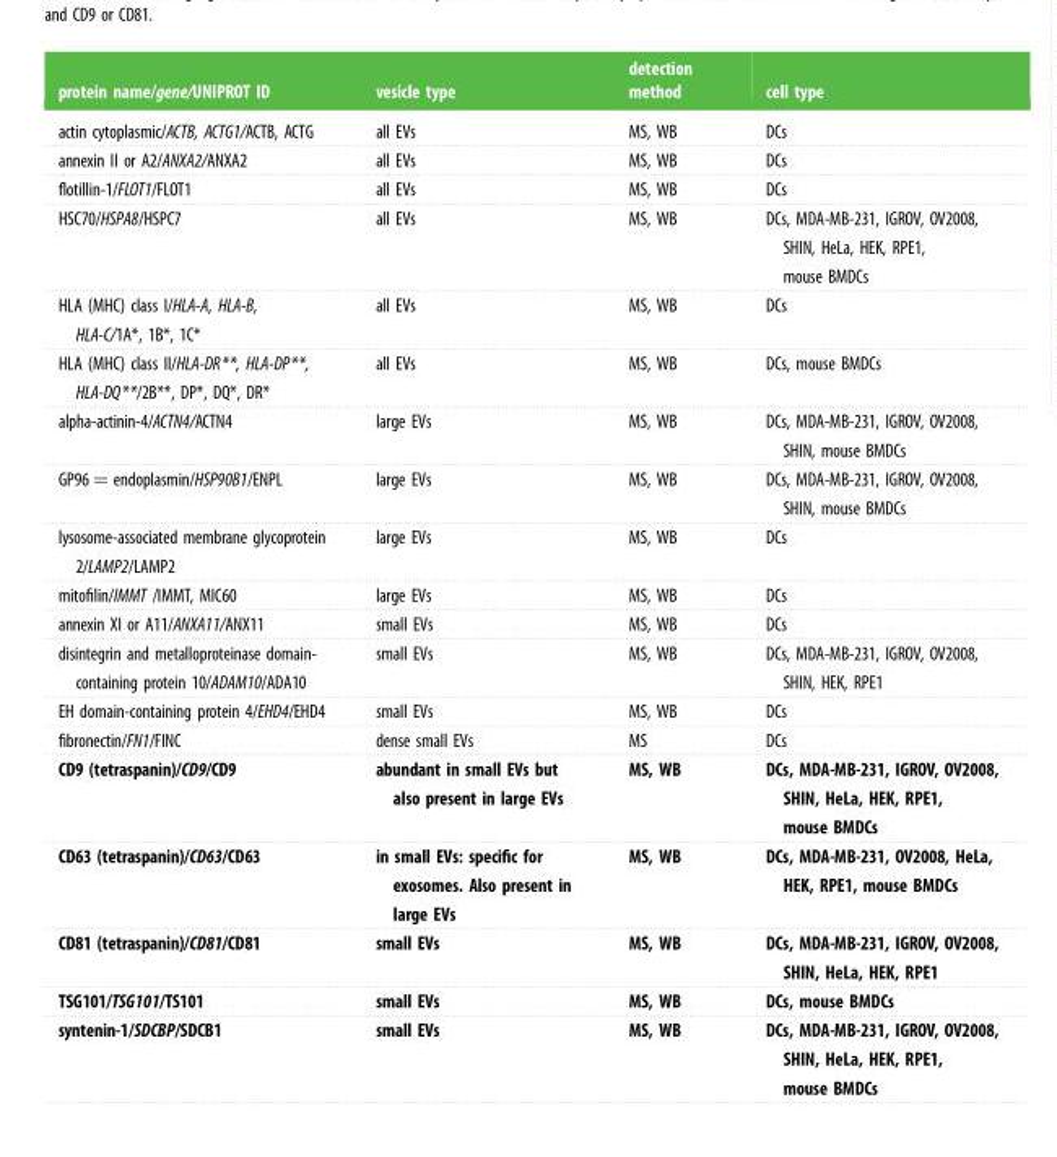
<table><thead><tr><td>protein name/gene/UNIPROT ID</td><td>vesicle type</td><td>detection method</td><td>cell type</td></tr></thead><tbody><tr><td>actin cytoplasmic/ACTB, ACTG1/ACTB, ACTG</td><td>all EVs</td><td>MS, WB</td><td>DCs</td></tr><tr><td>annexin II or A2/ANXA2/ANXA2</td><td>all EVs</td><td>MS, WB</td><td>DCs</td></tr><tr><td>flotillin-1/FLOT1/FLOT1</td><td>all EVs</td><td>MS, WB</td><td>DCs</td></tr><tr><td>HSC70/HSPA8/HSPC7</td><td>all EVs</td><td>MS, WB</td><td>DCs, MDA-MB-231, IGROV, OV2008, SHIN, HeLa, HEK, RPE1, mouse BMDCs</td></tr><tr><td>HLA (MHC) class I/HLA-A, HLA-B, HLA-C/1A*, 1B*, 1C*</td><td>all EVs</td><td>MS, WB</td><td>DCs</td></tr><tr><td>HLA (MHC) class II/HLA-DR**, HLA-DP**, HLA-DQ**/2B**, DP*, DQ*, DR*</td><td>all EVs</td><td>MS, WB</td><td>DCs, mouse BMDCs</td></tr><tr><td>alpha-actinin-4/ACTN4/ACTN4</td><td>large EVs</td><td>MS, WB</td><td>DCs, MDA-MB-231, IGROV, OV2008, SHIN, mouse BMDCs</td></tr><tr><td>GP96 = endoplasmin/HSP90B1/ENPL</td><td>large EVs</td><td>MS, WB</td><td>DCs, MDA-MB-231, IGROV, OV2008, SHIN, mouse BMDCs</td></tr><tr><td>lysosome-associated membrane glycoprotein 2/LAMP2/LAMP2</td><td>large EVs</td><td>MS, WB</td><td>DCs</td></tr><tr><td>mitofilin/IMMT /IMMT, MIC60</td><td>large EVs</td><td>MS, WB</td><td>DCs</td></tr><tr><td>annexin XI or A11/ANXA11/ANX11</td><td>small EVs</td><td>MS, WB</td><td>DCs</td></tr><tr><td>disintegrin and metalloproteinase domain- containing protein 10/ADAM10/ADA10</td><td>small EVs</td><td>MS, WB</td><td>DCs, MDA-MB-231, IGROV, OV2008, SHIN, HEK, RPE1</td></tr><tr><td>EH domain-containing protein 4/EHD4/EHD4</td><td>small EVs</td><td>MS, WB</td><td>DCs</td></tr><tr><td>fibronectin/FN1/FINC</td><td>dense small EVs</td><td>MS</td><td>DCs</td></tr><tr><td>CD9 (tetraspanin)/CD9/CD9</td><td>abundant in small EVs but also present in large EVs</td><td>MS, WB</td><td>DCs, MDA-MB-231, IGROV, OV2008, SHIN, HeLa, HEK, RPE1, mouse BMDCs</td></tr><tr><td>CD63 (tetraspanin)/CD63/CD63</td><td>in small EVs: specific for exosomes. Also present in large EVs</td><td>MS, WB</td><td>DCs, MDA-MB-231, OV2008, HeLa, HEK, RPE1, mouse BMDCs</td></tr><tr><td>CD81 (tetraspanin)/CD81/CD81</td><td>small EVs</td><td>MS, WB</td><td>DCs, MDA-MB-231, IGROV, OV2008, SHIN, HeLa, HEK, RPE1</td></tr><tr><td>TSG101/TSG101/TS101</td><td>small EVs</td><td>MS, WB</td><td>DCs, mouse BMDCs</td></tr><tr><td>syntenin-1/SDCBP/SDCB1</td><td>small EVs</td><td>MS, WB</td><td>DCs, MDA-MB-231, IGROV, OV2008, SHIN, HeLa, HEK, RPE1, mouse BMDCs</td></tr></tbody></table>